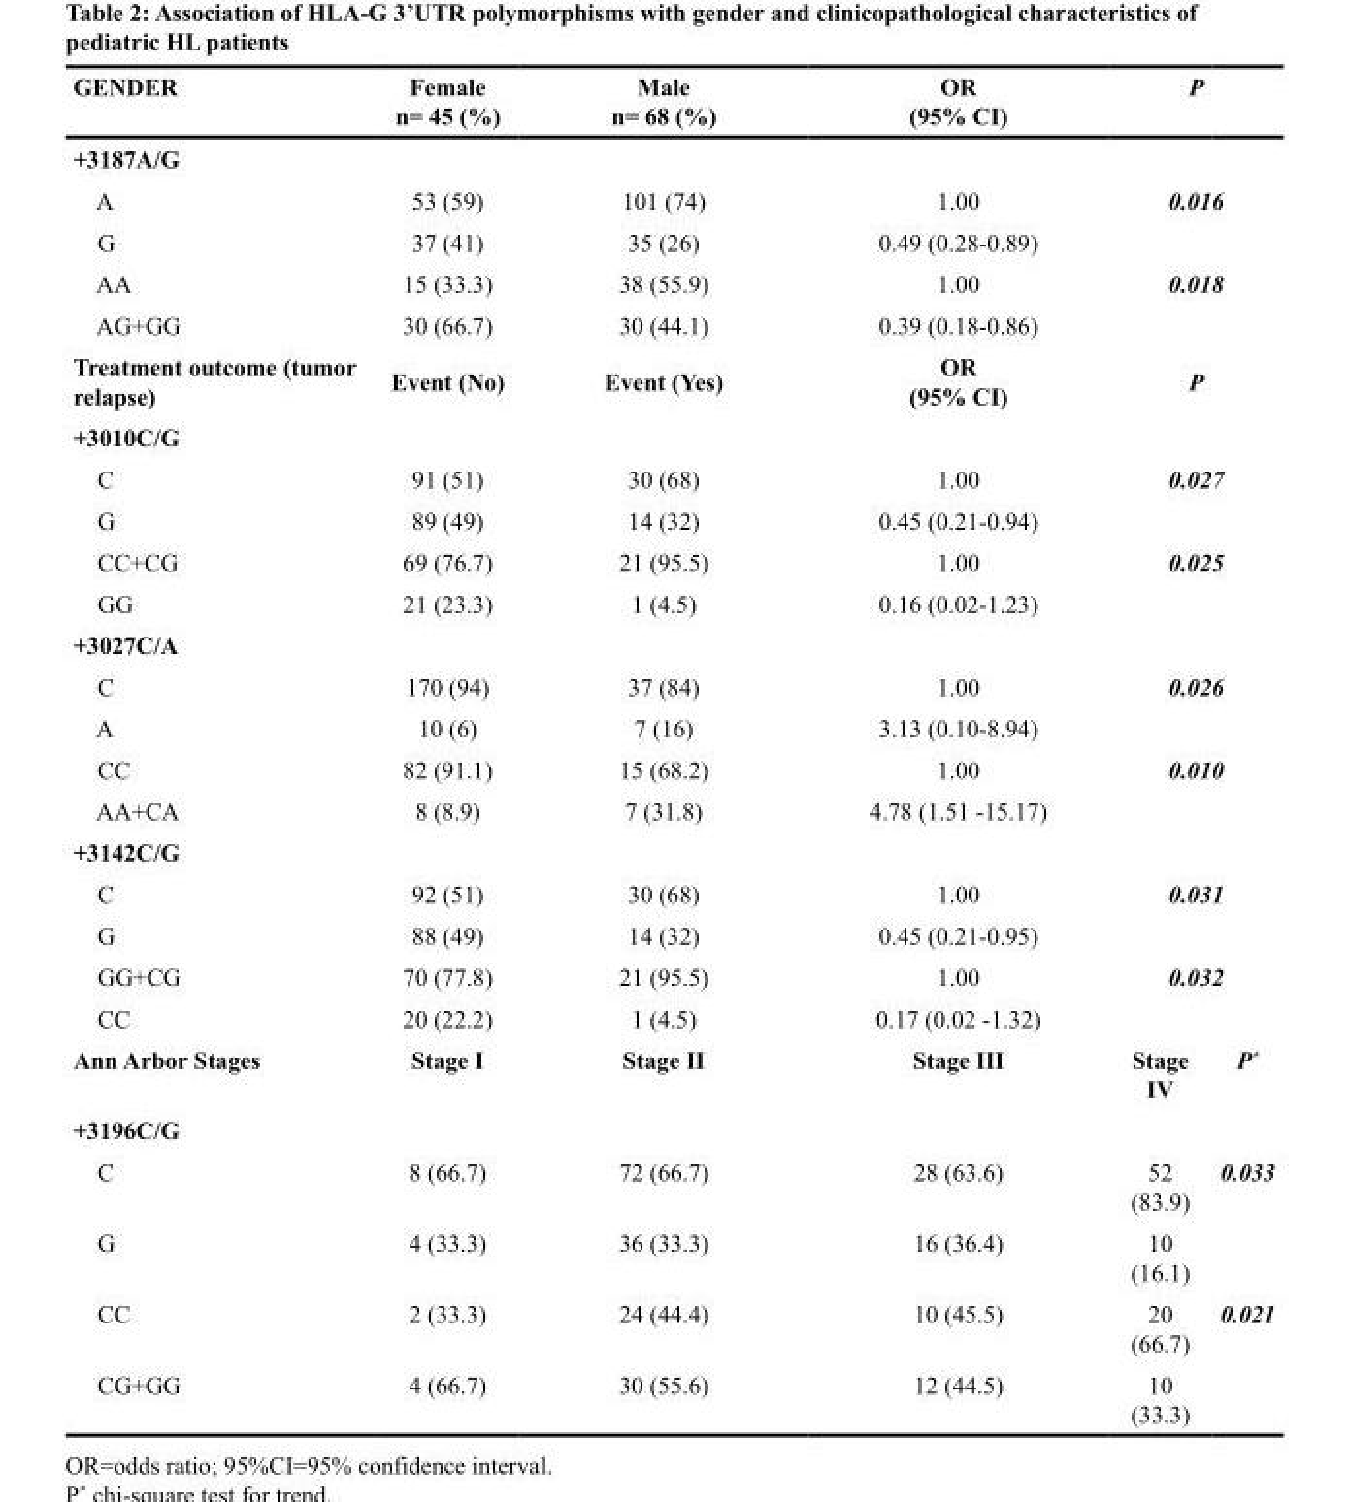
<table><thead><tr><td>GENDER</td><td>Female n= 45 (%)</td><td>Male n= 68 (%)</td><td>OR (95% CI)</td><td colspan="2">P</td></tr></thead><tbody><tr><td colspan="6">+3187A/G</td></tr><tr><td>A</td><td>53 (59)</td><td>101 (74)</td><td>1.00</td><td colspan="2">0.016</td></tr><tr><td>G</td><td>37 (41)</td><td>35 (26)</td><td>0.49 (0.28-0.89)</td><td colspan="2"></td></tr><tr><td>AA</td><td>15 (33.3)</td><td>38 (55.9)</td><td>1.00</td><td colspan="2">0.018</td></tr><tr><td>AG+GG</td><td>30 (66.7)</td><td>30 (44.1)</td><td>0.39 (0.18-0.86)</td><td colspan="2"></td></tr><tr><td>Treatment outcome (tumor relapse)</td><td>Event (No)</td><td>Event (Yes)</td><td>OR (95% CI)</td><td colspan="2">P</td></tr><tr><td colspan="6">+3010C/G</td></tr><tr><td>C</td><td>91 (51)</td><td>30 (68)</td><td>1.00</td><td colspan="2">0.027</td></tr><tr><td>G</td><td>89 (49)</td><td>14 (32)</td><td>0.45 (0.21-0.94)</td><td colspan="2"></td></tr><tr><td>CC+CG</td><td>69 (76.7)</td><td>21 (95.5)</td><td>1.00</td><td colspan="2">0.025</td></tr><tr><td>GG</td><td>21 (23.3)</td><td>1 (4.5)</td><td>0.16 (0.02-1.23)</td><td colspan="2"></td></tr><tr><td colspan="6">+3027C/A</td></tr><tr><td>C</td><td>170 (94)</td><td>37 (84)</td><td>1.00</td><td colspan="2">0.026</td></tr><tr><td>A</td><td>10 (6)</td><td>7 (16)</td><td>3.13 (0.10-8.94)</td><td colspan="2"></td></tr><tr><td>CC</td><td>82 (91.1)</td><td>15 (68.2)</td><td>1.00</td><td colspan="2">0.010</td></tr><tr><td>AA+CA</td><td>8 (8.9)</td><td>7 (31.8)</td><td>4.78 (1.51 -15.17)</td><td colspan="2"></td></tr><tr><td colspan="6">+3142C/G</td></tr><tr><td>C</td><td>92 (51)</td><td>30 (68)</td><td>1.00</td><td colspan="2">0.031</td></tr><tr><td>G</td><td>88 (49)</td><td>14 (32)</td><td>0.45 (0.21-0.95)</td><td colspan="2"></td></tr><tr><td>GG+CG</td><td>70 (77.8)</td><td>21 (95.5)</td><td>1.00</td><td colspan="2">0.032</td></tr><tr><td>CC</td><td>20 (22.2)</td><td>1 (4.5)</td><td>0.17 (0.02 -1.32)</td><td colspan="2"></td></tr><tr><td>Ann Arbor Stages</td><td>Stage I</td><td>Stage II</td><td>Stage III</td><td>Stage IV</td><td>P*</td></tr><tr><td colspan="6">+3196C/G</td></tr><tr><td>C</td><td>8 (66.7)</td><td>72 (66.7)</td><td>28 (63.6)</td><td>52 (83.9)</td><td>0.033</td></tr><tr><td>G</td><td>4 (33.3)</td><td>36 (33.3)</td><td>16 (36.4)</td><td>10 (16.1)</td><td></td></tr><tr><td>CC</td><td>2 (33.3)</td><td>24 (44.4)</td><td>10 (45.5)</td><td>20 (66.7)</td><td>0.021</td></tr><tr><td>CG+GG</td><td>4 (66.7)</td><td>30 (55.6)</td><td>12 (44.5)</td><td>10 (33.3)</td><td></td></tr></tbody></table>